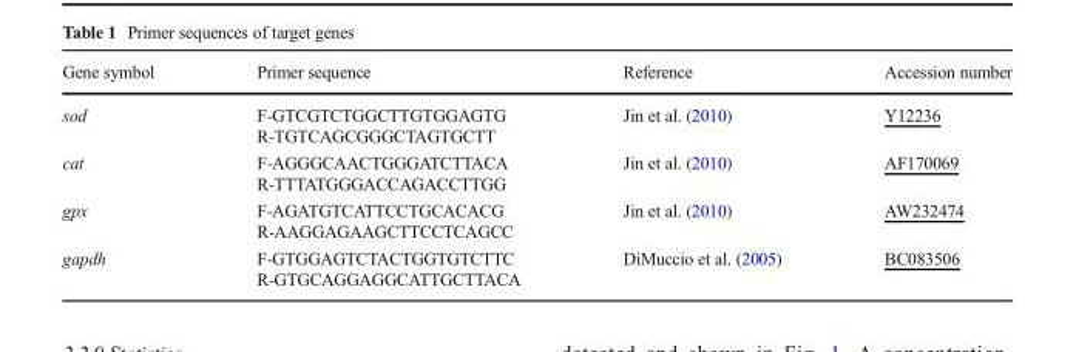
<table><thead><tr><td>Gene symbol</td><td>Primer sequence</td><td>Reference</td><td>Accession number</td></tr></thead><tbody><tr><td rowspan="2">sod</td><td>F-GTCGTCTGGCTTGTGGAGTG</td><td rowspan="2">Jin et al. (2010)</td><td rowspan="2">Y12236</td></tr><tr><td>R-TGTCAGCGGGCTAGTGCTT</td></tr><tr><td rowspan="2">cat</td><td>F-AGGGCAACTGGGATCTTACA</td><td rowspan="2">Jin et al. (2010)</td><td rowspan="2">AF170069</td></tr><tr><td>R-TTTATGGGACCAGACCTTGG</td></tr><tr><td rowspan="2">gpx</td><td>F-AGATGTCATTCCTGCACACG</td><td rowspan="2">Jin et al. (2010)</td><td rowspan="2">AW232474</td></tr><tr><td>R-AAGGAGAAGCTTCCTCAGCC</td></tr><tr><td rowspan="2">gapdh</td><td>F-GTGGAGTCTACTGGTGTCTTC</td><td rowspan="2">DiMuccio et al. (2005)</td><td rowspan="2">BC083506</td></tr><tr><td>R-GTGCAGGAGGCATTGCTTACA</td></tr></tbody></table>